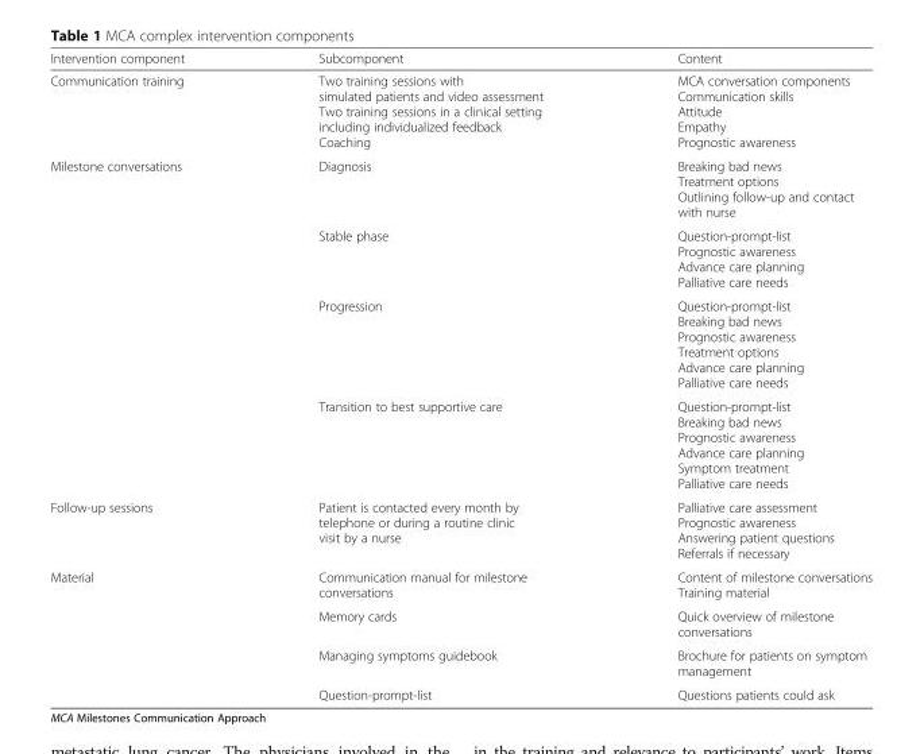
<table><thead><tr><td>Intervention component</td><td>Subcomponent</td><td>Content</td></tr></thead><tbody><tr><td>Communication training</td><td>Two training sessions with simulated patients and video assessment Two training sessions in a clinical setting including individualized feedback Coaching</td><td>MCA conversation components Communication skills Attitude Empathy Prognostic awareness</td></tr><tr><td rowspan="4">Milestone conversations</td><td>Diagnosis</td><td>Breaking bad news Treatment options Outlining follow-up and contact with nurse</td></tr><tr><td>Stable phase</td><td>Question-prompt-list Prognostic awareness Advance care planning Palliative care needs</td></tr><tr><td>Progression</td><td>Question-prompt-list Breaking bad news Prognostic awareness Treatment options Advance care planning Palliative care needs</td></tr><tr><td>Transition to best supportive care</td><td>Question-prompt-list Breaking bad news Prognostic awareness Advance care planning Symptom treatment Palliative care needs</td></tr><tr><td>Follow-up sessions</td><td>Patient is contacted every month by telephone or during a routine clinic visit by a nurse</td><td>Palliative care assessment Prognostic awareness Answering patient questions Referrals if necessary</td></tr><tr><td rowspan="4">Material</td><td>Communication manual for milestone conversations</td><td>Content of milestone conversations Training material</td></tr><tr><td>Memory cards</td><td>Quick overview of milestone conversations</td></tr><tr><td>Managing symptoms guidebook</td><td>Brochure for patients on symptom management</td></tr><tr><td>Question-prompt-list</td><td>Questions patients could ask</td></tr></tbody></table>